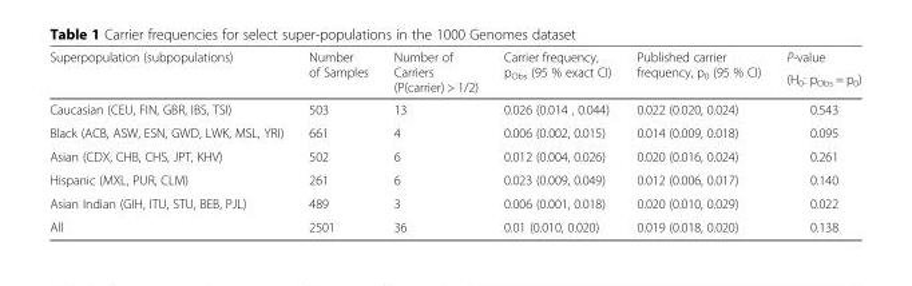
<table><thead><tr><td rowspan="2">Superpopulation (subpopulations)</td><td rowspan="2">Number of Samples</td><td rowspan="2">Number of Carriers (P(carrier) &gt; 1/2)</td><td rowspan="2">Carrier frequency, p<sub>Obs</sub> (95 % exact CI)</td><td rowspan="2">Published carrier frequency, p<sub>0</sub> (95 % CI)</td><td rowspan="2">P-value (H<sub>0</sub>: p<sub>Obs</sub> = p<sub>0</sub>)</td></tr><tr></tr></thead><tbody><tr><td>Caucasian (CEU, FIN, GBR, IBS, TSI)</td><td>503</td><td>13</td><td>0.026 (0.014 , 0.044)</td><td>0.022 (0.020, 0.024)</td><td>0.543</td></tr><tr><td>Black (ACB, ASW, ESN, GWD, LWK, MSL, YRI)</td><td>661</td><td>4</td><td>0.006 (0.002, 0.015)</td><td>0.014 (0.009, 0.018)</td><td>0.095</td></tr><tr><td>Asian (CDX, CHB, CHS, JPT, KHV)</td><td>502</td><td>6</td><td>0.012 (0.004, 0.026)</td><td>0.020 (0.016, 0.024)</td><td>0.261</td></tr><tr><td>Hispanic (MXL, PUR, CLM)</td><td>261</td><td>6</td><td>0.023 (0.009, 0.049)</td><td>0.012 (0.006, 0.017)</td><td>0.140</td></tr><tr><td>Asian Indian (GIH, ITU, STU, BEB, PJL)</td><td>489</td><td>3</td><td>0.006 (0.001, 0.018)</td><td>0.020 (0.010, 0.029)</td><td>0.022</td></tr><tr><td>All</td><td>2501</td><td>36</td><td>0.01 (0.010, 0.020)</td><td>0.019 (0.018, 0.020)</td><td>0.138</td></tr></tbody></table>